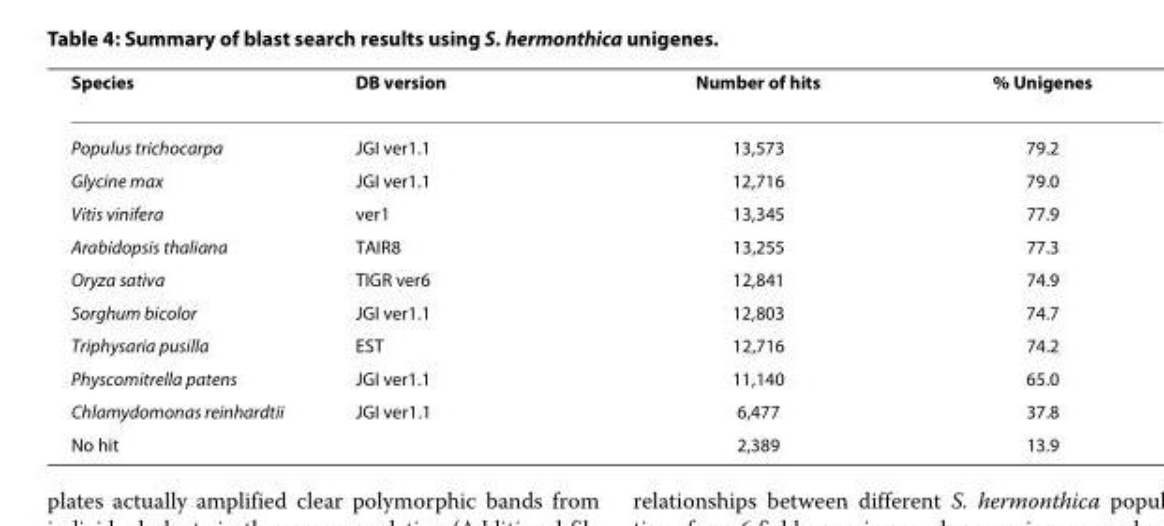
<table><thead><tr><td>Species</td><td>DB version</td><td>Number of hits</td><td>% Unigenes</td></tr></thead><tbody><tr><td>Populus trichocarpa</td><td>JGI ver1.1</td><td>13,573</td><td>79.2</td></tr><tr><td>Glycine max</td><td>JGI ver1.1</td><td>12,716</td><td>79.0</td></tr><tr><td>Vitis vinifera</td><td>ver1</td><td>13,345</td><td>77.9</td></tr><tr><td>Arabidopsis thaliana</td><td>TAIR8</td><td>13,255</td><td>77.3</td></tr><tr><td>Oryza sativa</td><td>TIGR ver6</td><td>12,841</td><td>74.9</td></tr><tr><td>Sorghum bicolor</td><td>JGI ver1.1</td><td>12,803</td><td>74.7</td></tr><tr><td>Triphysaria pusilla</td><td>EST</td><td>12,716</td><td>74.2</td></tr><tr><td>Physcomitrella patens</td><td>JGI ver1.1</td><td>11,140</td><td>65.0</td></tr><tr><td>Chlamydomonas reinhardtii</td><td>JGI ver1.1</td><td>6,477</td><td>37.8</td></tr><tr><td>No hit</td><td></td><td>2,389</td><td>13.9</td></tr></tbody></table>